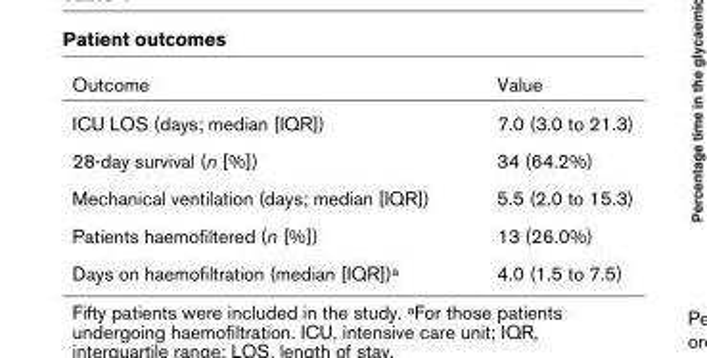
<table><thead><tr><td>Outcome</td><td>Value</td></tr></thead><tbody><tr><td>ICU LOS (days; median [IQR])</td><td>7.0 (3.0 to 21.3)</td></tr><tr><td>28-day survival (n [%])</td><td>34 (64.2%)</td></tr><tr><td>Mechanical ventilation (days; median [IQR])</td><td>5.5 (2.0 to 15.3)</td></tr><tr><td>Patients haemofiltered (n [%])</td><td>13 (26.0%)</td></tr><tr><td>Days on haemofiltration (median [IQR])<sup>a</sup></td><td>4.0 (1.5 to 7.5)</td></tr></tbody></table>